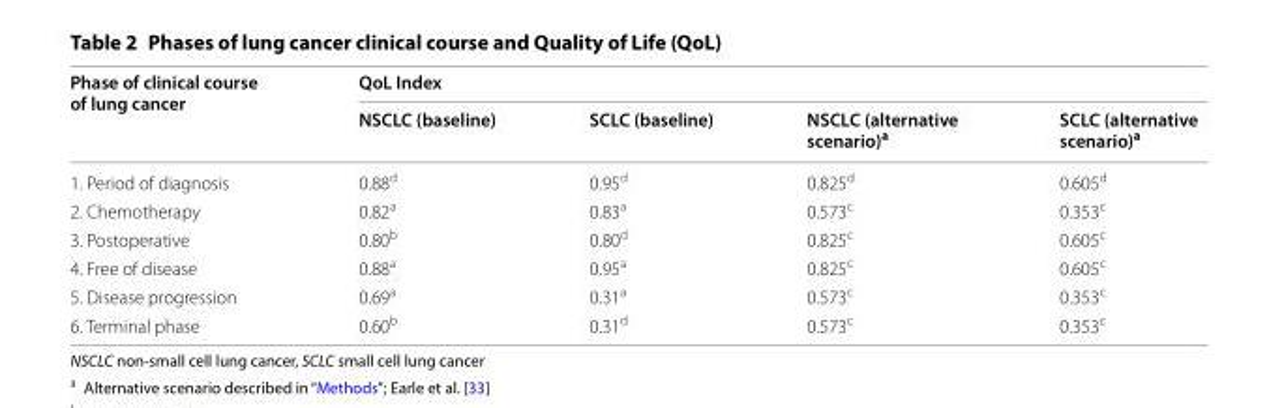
<table><thead><tr><td rowspan="2">Phase of clinical course of lung cancer</td><td colspan="4">QoL Index</td></tr><tr><td>NSCLC (baseline)</td><td>SCLC (baseline)</td><td>NSCLC (alternative scenario)<sup>a</sup></td><td>SCLC (alternative scenario)<sup>a</sup></td></tr></thead><tbody><tr><td>1. Period of diagnosis</td><td>0.88<sup>d</sup></td><td>0.95<sup>d</sup></td><td>0.825<sup>d</sup></td><td>0.605<sup>d</sup></td></tr><tr><td>2. Chemotherapy</td><td>0.82<sup>a</sup></td><td>0.83<sup>a</sup></td><td>0.573<sup>c</sup></td><td>0.353<sup>c</sup></td></tr><tr><td>3. Postoperative</td><td>0.80<sup>b</sup></td><td>0.80<sup>d</sup></td><td>0.825<sup>c</sup></td><td>0.605<sup>c</sup></td></tr><tr><td>4. Free of disease</td><td>0.88<sup>a</sup></td><td>0.95<sup>a</sup></td><td>0.825<sup>c</sup></td><td>0.605<sup>c</sup></td></tr><tr><td>5. Disease progression</td><td>0.69<sup>a</sup></td><td>0.31<sup>a</sup></td><td>0.573<sup>c</sup></td><td>0.353<sup>c</sup></td></tr><tr><td>6. Terminal phase</td><td>0.60<sup>b</sup></td><td>0.31<sup>d</sup></td><td>0.573<sup>c</sup></td><td>0.353<sup>c</sup></td></tr></tbody></table>